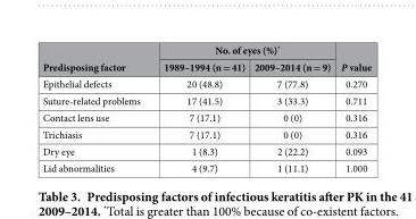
<table><thead><tr><td rowspan="2">Predisposing factor</td><td colspan="2">No. of eyes (%)*</td><td rowspan="2">P value</td></tr><tr><td>1989–1994 (n = 41)</td><td>2009–2014 (n = 9)</td></tr></thead><tbody><tr><td>Epithelial defects</td><td>20 (48.8)</td><td>7 (77.8)</td><td>0.270</td></tr><tr><td>Suture-related problems</td><td>17 (41.5)</td><td>3 (33.3)</td><td>0.711</td></tr><tr><td>Contact lens use</td><td>7 (17.1)</td><td>0 (0)</td><td>0.316</td></tr><tr><td>Trichiasis</td><td>7 (17.1)</td><td>0 (0)</td><td>0.316</td></tr><tr><td>Dry eye</td><td>1 (8.3)</td><td>2 (22.2)</td><td>0.093</td></tr><tr><td>Lid abnormalities</td><td>4 (9.7)</td><td>1 (11.1)</td><td>1.000</td></tr></tbody></table>